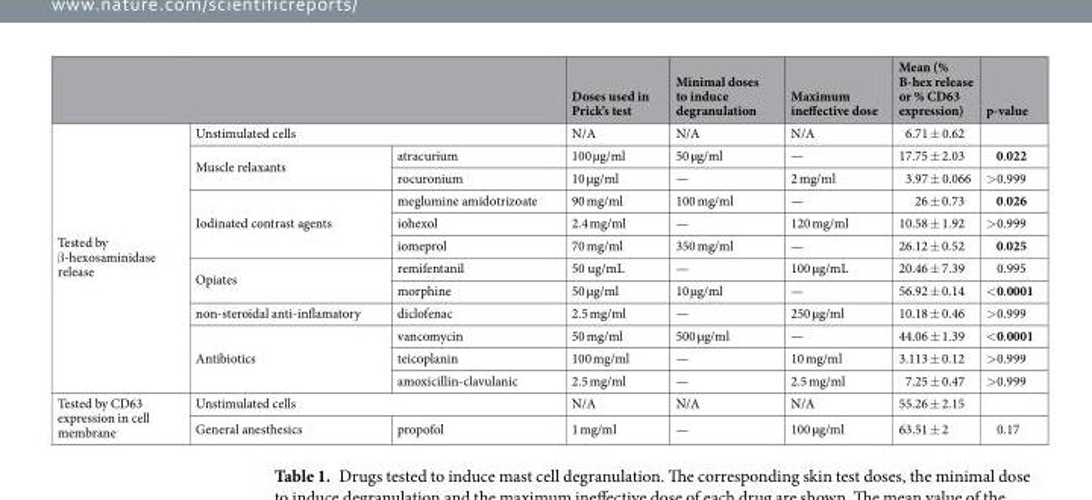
<table><thead><tr><td></td><td></td><td></td><td>Doses used in Prick’s test</td><td>Minimal doses to induce degranulation</td><td>Maximum ineffective dose</td><td>Mean (% B-hex release or % CD63 expression)</td><td>p-value</td></tr></thead><tbody><tr><td rowspan="12">Tested by β-hexosaminidase release</td><td colspan="2">Unstimulated cells</td><td>N/A</td><td>N/A</td><td>N/A</td><td>6.71 ± 0.62</td><td></td></tr><tr><td rowspan="2">Muscle relaxants</td><td>atracurium</td><td>100 µg/ml</td><td>50 µg/ml</td><td>—</td><td>17.75 ± 2.03</td><td>0.022</td></tr><tr><td>rocuronium</td><td>10 µg/ml</td><td>—</td><td>2 mg/ml</td><td>3.97 ± 0.066</td><td>&gt;0.999</td></tr><tr><td rowspan="3">Iodinated contrast agents</td><td>meglumine amidotrizoate</td><td>90 mg/ml</td><td>100 mg/ml</td><td>—</td><td>26 ± 0.73</td><td>0.026</td></tr><tr><td>iohexol</td><td>2.4 mg/ml</td><td>—</td><td>120 mg/ml</td><td>10.58 ± 1.92</td><td>&gt;0.999</td></tr><tr><td>iomeprol</td><td>70 mg/ml</td><td>350 mg/ml</td><td>—</td><td>26.12 ± 0.52</td><td>0.025</td></tr><tr><td rowspan="2">Opiates</td><td>remifentanil</td><td>50 ug/mL</td><td>—</td><td>100 µg/mL</td><td>20.46 ± 7.39</td><td>0.995</td></tr><tr><td>morphine</td><td>50 µg/ml</td><td>10 µg/ml</td><td>—</td><td>56.92 ± 0.14</td><td>&lt;0.0001</td></tr><tr><td>non-steroidal anti-inflamatory</td><td>diclofenac</td><td>2.5 mg/ml</td><td>—</td><td>250 µg/ml</td><td>10.18 ± 0.46</td><td>&gt;0.999</td></tr><tr><td rowspan="3">Antibiotics</td><td>vancomycin</td><td>50 mg/ml</td><td>500 µg/ml</td><td>—</td><td>44.06 ± 1.39</td><td>&lt;0.0001</td></tr><tr><td>teicoplanin</td><td>100 mg/ml</td><td>—</td><td>10 mg/ml</td><td>3.113 ± 0.12</td><td>&gt;0.999</td></tr><tr><td>amoxicillin-clavulanic</td><td>2.5 mg/ml</td><td>—</td><td>2.5 mg/ml</td><td>7.25 ± 0.47</td><td>&gt;0.999</td></tr><tr><td rowspan="2">Tested by CD63 expression in cell membrane</td><td colspan="2">Unstimulated cells</td><td>N/A</td><td>N/A</td><td>N/A</td><td>55.26 ± 2.15</td><td></td></tr><tr><td>General anesthesics</td><td>propofol</td><td>1 mg/ml</td><td>—</td><td>100 µg/ml</td><td>63.51 ± 2</td><td>0.17</td></tr></tbody></table>